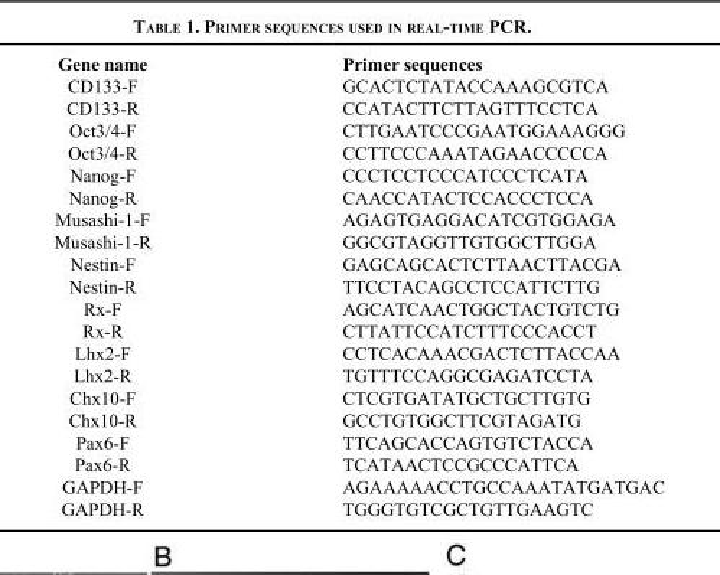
<table><thead><tr><td>Gene name</td><td>Primer sequences</td></tr></thead><tbody><tr><td>CD133-F</td><td>GCACTCTATACCAAAGCGTCA</td></tr><tr><td>CD133-R</td><td>CCATACTTCTTAGTTTCCTCA</td></tr><tr><td>Oct3/4-F</td><td>CTTGAATCCCGAATGGAAAGGG</td></tr><tr><td>Oct3/4-R</td><td>CCTTCCCAAATAGAACCCCCA</td></tr><tr><td>Nanog-F</td><td>CCCTCCTCCCATCCCTCATA</td></tr><tr><td>Nanog-R</td><td>CAACCATACTCCACCCTCCA</td></tr><tr><td>Musashi-1-F</td><td>AGAGTGAGGACATCGTGGAGA</td></tr><tr><td>Musashi-1-R</td><td>GGCGTAGGTTGTGGCTTGGA</td></tr><tr><td>Nestin-F</td><td>GAGCAGCACTCTTAACTTACGA</td></tr><tr><td>Nestin-R</td><td>TTCCTACAGCCTCCATTCTTG</td></tr><tr><td>Rx-F</td><td>AGCATCAACTGGCTACTGTCTG</td></tr><tr><td>Rx-R</td><td>CTTATTCCATCTTTCCCACCT</td></tr><tr><td>Lhx2-F</td><td>CCTCACAAACGACTCTTACCAA</td></tr><tr><td>Lhx2-R</td><td>TGTTTCCAGGCGAGATCCTA</td></tr><tr><td>Chx10-F</td><td>CTCGTGATATGCTGCTTGTG</td></tr><tr><td>Chx10-R</td><td>GCCTGTGGCTTCGTAGATG</td></tr><tr><td>Pax6-F</td><td>TTCAGCACCAGTGTCTACCA</td></tr><tr><td>Pax6-R</td><td>TCATAACTCCGCCCATTCA</td></tr><tr><td>GAPDH-F</td><td>AGAAAAACCTGCCAAATATGATGAC</td></tr><tr><td>GAPDH-R</td><td>TGGGTGTCGCTGTTGAAGTC</td></tr></tbody></table>